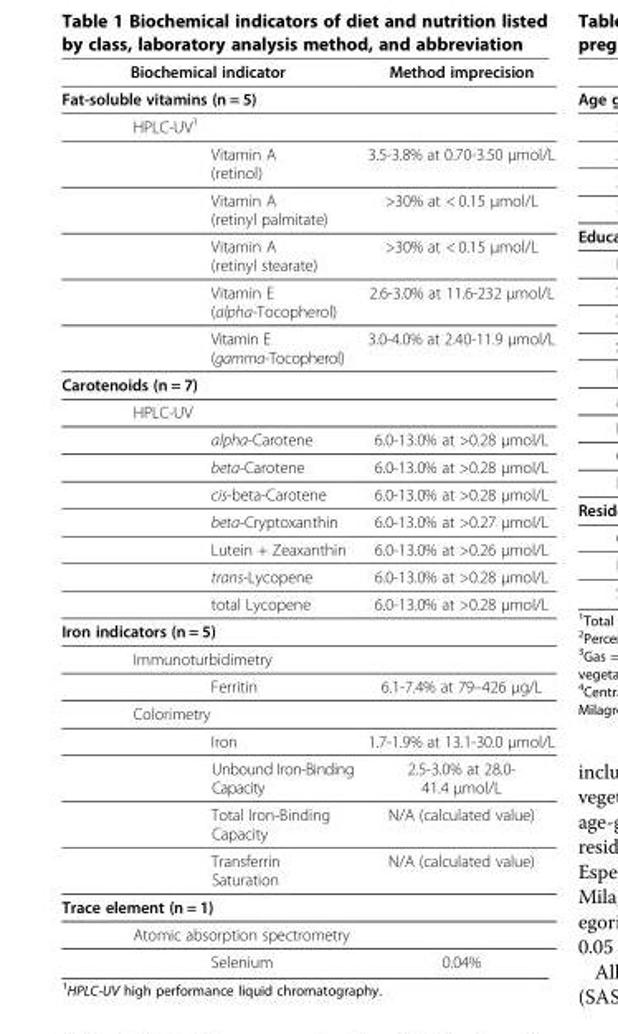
<table><thead><tr><td>Biochemical indicator</td><td>Method imprecision</td></tr></thead><tbody><tr><td colspan="2">Fat-soluble vitamins (n = 5)</td></tr><tr><td colspan="2">HPLC-UV<sup>1</sup></td></tr><tr><td>Vitamin A (retinol)</td><td>3.5-3.8% at 0.70-3.50 μmol/L</td></tr><tr><td>Vitamin A (retinyl palmitate)</td><td>&gt;30% at &lt; 0.15 μmol/L</td></tr><tr><td>Vitamin A (retinyl stearate)</td><td>&gt;30% at &lt; 0.15 μmol/L</td></tr><tr><td>Vitamin E (alpha-Tocopherol)</td><td>2.6-3.0% at 11.6-232 μmol/L</td></tr><tr><td>Vitamin E (gamma-Tocopherol)</td><td>3.0-4.0% at 2.40-11.9 μmol/L</td></tr><tr><td colspan="2">Carotenoids (n = 7)</td></tr><tr><td colspan="2">HPLC-UV</td></tr><tr><td>alpha-Carotene</td><td>6.0-13.0% at &gt;0.28 μmol/L</td></tr><tr><td>beta-Carotene</td><td>6.0-13.0% at &gt;0.28 μmol/L</td></tr><tr><td>cis-beta-Carotene</td><td>6.0-13.0% at &gt;0.28 μmol/L</td></tr><tr><td>beta-Cryptoxanthin</td><td>6.0-13.0% at &gt;0.27 μmol/L</td></tr><tr><td>Lutein + Zeaxanthin</td><td>6.0-13.0% at &gt;0.26 μmol/L</td></tr><tr><td>trans-Lycopene</td><td>6.0-13.0% at &gt;0.28 μmol/L</td></tr><tr><td>total Lycopene</td><td>6.0-13.0% at &gt;0.28 μmol/L</td></tr><tr><td colspan="2">Iron indicators (n = 5)</td></tr><tr><td colspan="2">Immunoturbidimetry</td></tr><tr><td>Ferritin</td><td>6.1-7.4% at 79–426 μg/L</td></tr><tr><td colspan="2">Colorimetry</td></tr><tr><td>Iron</td><td>1.7-1.9% at 13.1-30.0 μmol/L</td></tr><tr><td>Unbound Iron-Binding Capacity</td><td>2.5-3.0% at 28.0- 41.4 μmol/L</td></tr><tr><td>Total Iron-Binding Capacity</td><td>N/A (calculated value)</td></tr><tr><td>Transferrin Saturation</td><td>N/A (calculated value)</td></tr><tr><td colspan="2">Trace element (n = 1)</td></tr><tr><td colspan="2">Atomic absorption spectrometry</td></tr><tr><td>Selenium</td><td>0.04%</td></tr></tbody></table>